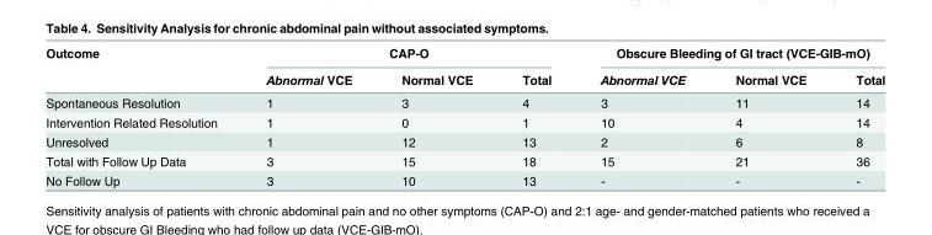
<table><thead><tr><td rowspan="2">Outcome</td><td colspan="3">CAP-O</td><td colspan="3">Obscure Bleeding of GI tract (VCE-GIB-mO)</td></tr><tr><td>Abnormal VCE</td><td>Normal VCE</td><td>Total</td><td>Abnormal VCE</td><td>Normal VCE</td><td>Total</td></tr></thead><tbody><tr><td>Spontaneous Resolution</td><td>1</td><td>3</td><td>4</td><td>3</td><td>11</td><td>14</td></tr><tr><td>Intervention Related Resolution</td><td>1</td><td>0</td><td>1</td><td>10</td><td>4</td><td>14</td></tr><tr><td>Unresolved</td><td>1</td><td>12</td><td>13</td><td>2</td><td>6</td><td>8</td></tr><tr><td>Total with Follow Up Data</td><td>3</td><td>15</td><td>18</td><td>15</td><td>21</td><td>36</td></tr><tr><td>No Follow Up</td><td>3</td><td>10</td><td>13</td><td>-</td><td>-</td><td>-</td></tr></tbody></table>